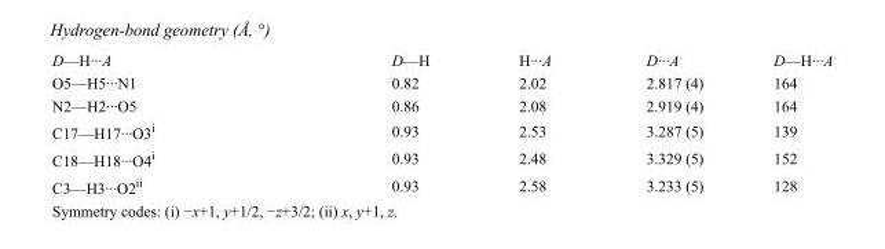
<table><tbody><tr><td>D—H···A</td><td>D—H</td><td>H···A</td><td>D···A</td><td>D—H···A</td></tr><tr><td>O5—H5···N1</td><td>0.82</td><td>2.02</td><td>2.817 (4)</td><td>164</td></tr><tr><td>N2—H2···O5</td><td>0.86</td><td>2.08</td><td>2.919 (4)</td><td>164</td></tr><tr><td>C17—H17···O3<sup>i</sup></td><td>0.93</td><td>2.53</td><td>3.287 (5)</td><td>139</td></tr><tr><td>C18—H18···O4<sup>i</sup></td><td>0.93</td><td>2.48</td><td>3.329 (5)</td><td>152</td></tr><tr><td>C3—H3···O2<sup>ii</sup></td><td>0.93</td><td>2.58</td><td>3.233 (5)</td><td>128</td></tr></tbody></table>